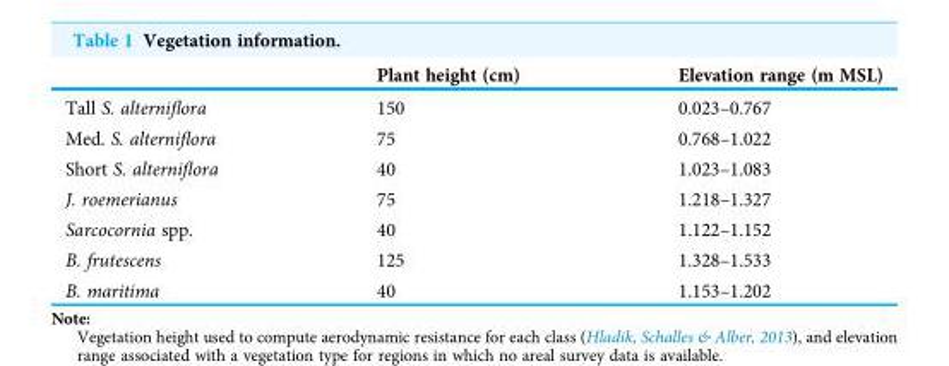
<table><thead><tr><td></td><td>Plant height (cm)</td><td>Elevation range (m MSL)</td></tr></thead><tbody><tr><td>Tall S. alterniflora</td><td>150</td><td>0.023–0.767</td></tr><tr><td>Med. S. alterniflora</td><td>75</td><td>0.768–1.022</td></tr><tr><td>Short S. alterniflora</td><td>40</td><td>1.023–1.083</td></tr><tr><td>J. roemerianus</td><td>75</td><td>1.218–1.327</td></tr><tr><td>Sarcocornia spp.</td><td>40</td><td>1.122–1.152</td></tr><tr><td>B. frutescens</td><td>125</td><td>1.328–1.533</td></tr><tr><td>B. maritima</td><td>40</td><td>1.153–1.202</td></tr></tbody></table>